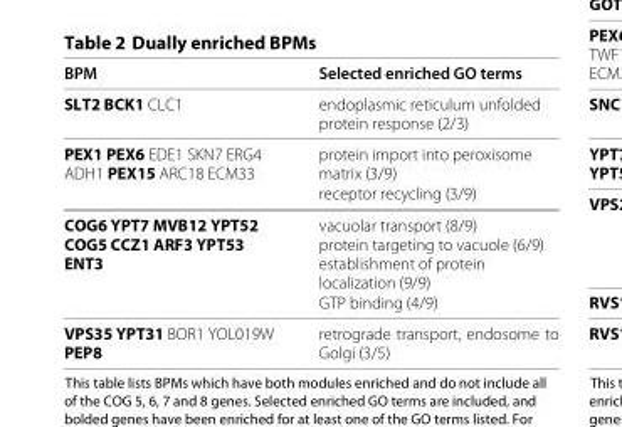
<table><thead><tr><td>BPM</td><td>Selected enriched GO terms</td></tr></thead><tbody><tr><td>SLT2 BCK1 CLC1</td><td>endoplasmic reticulum unfolded protein response (2/3)</td></tr><tr><td rowspan="2">PEX1 PEX6 EDE1 SKN7 ERG4 ADH1 PEX15 ARC18 ECM33</td><td>protein import into peroxisome matrix (3/9)</td></tr><tr><td>receptor recycling (3/9)</td></tr><tr><td rowspan="2">COG6 YPT7 MVB12 YPT52 COG5 CCZ1 ARF3 YPT53 ENT3</td><td>vacuolar transport (8/9) protein targeting to vacuole (6/9) establishment of protein localization (9/9)</td></tr><tr><td>GTP binding (4/9)</td></tr><tr><td>VPS35 YPT31 BOR1 YOL019W PEP8</td><td>retrograde transport, endosome to Golgi (3/5)</td></tr></tbody></table>